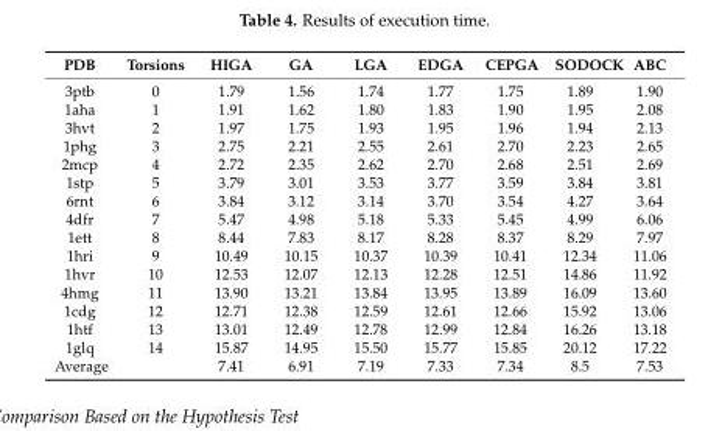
<table><thead><tr><td>PDB</td><td>Torsions</td><td>HIGA</td><td>GA</td><td>LGA</td><td>EDGA</td><td>CEPGA</td><td>SODOCK</td><td>ABC</td></tr></thead><tbody><tr><td>3ptb</td><td>0</td><td>1.79</td><td>1.56</td><td>1.74</td><td>1.77</td><td>1.75</td><td>1.89</td><td>1.90</td></tr><tr><td>1aha</td><td>1</td><td>1.91</td><td>1.62</td><td>1.80</td><td>1.83</td><td>1.90</td><td>1.95</td><td>2.08</td></tr><tr><td>3hvt</td><td>2</td><td>1.97</td><td>1.75</td><td>1.93</td><td>1.95</td><td>1.96</td><td>1.94</td><td>2.13</td></tr><tr><td>1phg</td><td>3</td><td>2.75</td><td>2.21</td><td>2.55</td><td>2.61</td><td>2.70</td><td>2.23</td><td>2.65</td></tr><tr><td>2mcp</td><td>4</td><td>2.72</td><td>2.35</td><td>2.62</td><td>2.70</td><td>2.68</td><td>2.51</td><td>2.69</td></tr><tr><td>1stp</td><td>5</td><td>3.79</td><td>3.01</td><td>3.53</td><td>3.77</td><td>3.59</td><td>3.84</td><td>3.81</td></tr><tr><td>6rnt</td><td>6</td><td>3.84</td><td>3.12</td><td>3.14</td><td>3.70</td><td>3.54</td><td>4.27</td><td>3.64</td></tr><tr><td>4dfr</td><td>7</td><td>5.47</td><td>4.98</td><td>5.18</td><td>5.33</td><td>5.45</td><td>4.99</td><td>6.06</td></tr><tr><td>1ett</td><td>8</td><td>8.44</td><td>7.83</td><td>8.17</td><td>8.28</td><td>8.37</td><td>8.29</td><td>7.97</td></tr><tr><td>1hri</td><td>9</td><td>10.49</td><td>10.15</td><td>10.37</td><td>10.39</td><td>10.41</td><td>12.34</td><td>11.06</td></tr><tr><td>1hvr</td><td>10</td><td>12.53</td><td>12.07</td><td>12.13</td><td>12.28</td><td>12.51</td><td>14.86</td><td>11.92</td></tr><tr><td>4hmg</td><td>11</td><td>13.90</td><td>13.21</td><td>13.84</td><td>13.95</td><td>13.89</td><td>16.09</td><td>13.60</td></tr><tr><td>1cdg</td><td>12</td><td>12.71</td><td>12.38</td><td>12.59</td><td>12.61</td><td>12.66</td><td>15.92</td><td>13.06</td></tr><tr><td>1htf</td><td>13</td><td>13.01</td><td>12.49</td><td>12.78</td><td>12.99</td><td>12.84</td><td>16.26</td><td>13.18</td></tr><tr><td>1glq</td><td>14</td><td>15.87</td><td>14.95</td><td>15.50</td><td>15.77</td><td>15.85</td><td>20.12</td><td>17.22</td></tr><tr><td>Average</td><td></td><td>7.41</td><td>6.91</td><td>7.19</td><td>7.33</td><td>7.34</td><td>8.5</td><td>7.53</td></tr></tbody></table>